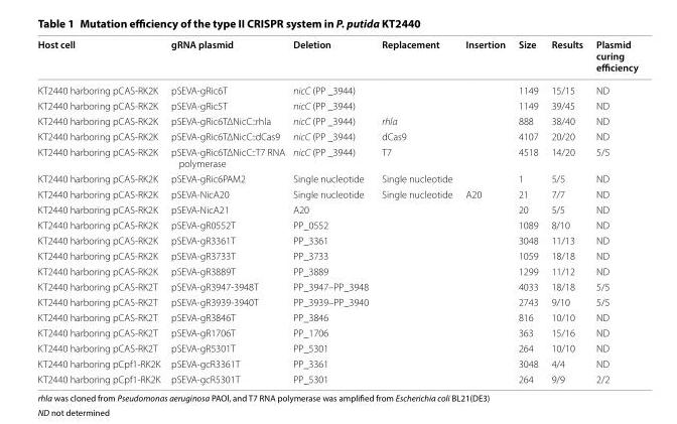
<table><thead><tr><td>Host cell</td><td>gRNA plasmid</td><td>Deletion</td><td>Replacement</td><td>Insertion</td><td>Size</td><td>Results</td><td>Plasmid curing efficiency</td></tr></thead><tbody><tr><td>KT2440 harboring pCAS-RK2K</td><td>pSEVA-gRic6T</td><td>nicC (PP _3944)</td><td></td><td></td><td>1149</td><td>15/15</td><td>ND</td></tr><tr><td>KT2440 harboring pCAS-RK2K</td><td>pSEVA-gRic5T</td><td>nicC (PP _3944)</td><td></td><td></td><td>1149</td><td>39/45</td><td>ND</td></tr><tr><td>KT2440 harboring pCAS-RK2K</td><td>pSEVA-gRic6TΔNicC::rhla</td><td>nicC (PP _3944)</td><td>rhla</td><td></td><td>888</td><td>38/40</td><td>ND</td></tr><tr><td>KT2440 harboring pCAS-RK2K</td><td>pSEVA-gRic6TΔNicC::dCas9</td><td>nicC (PP _3944)</td><td>dCas9</td><td></td><td>4107</td><td>20/20</td><td>ND</td></tr><tr><td>KT2440 harboring pCAS-RK2K</td><td>pSEVA-gRic6TΔNicC::T7 RNA polymerase</td><td>nicC (PP _3944)</td><td>T7</td><td></td><td>4518</td><td>14/20</td><td>5/5</td></tr><tr><td>KT2440 harboring pCAS-RK2K</td><td>pSEVA-gRic6PAM2</td><td>Single nucleotide</td><td>Single nucleotide</td><td></td><td>1</td><td>5/5</td><td>ND</td></tr><tr><td>KT2440 harboring pCAS-RK2K</td><td>pSEVA-NicA20</td><td>Single nucleotide</td><td>Single nucleotide</td><td>A20</td><td>21</td><td>7/7</td><td>ND</td></tr><tr><td>KT2440 harboring pCAS-RK2K</td><td>pSEVA-NicA21</td><td>A20</td><td></td><td></td><td>20</td><td>5/5</td><td>ND</td></tr><tr><td>KT2440 harboring pCAS-RK2K</td><td>pSEVA-gR0552T</td><td>PP_0552</td><td></td><td></td><td>1089</td><td>8/10</td><td>ND</td></tr><tr><td>KT2440 harboring pCAS-RK2K</td><td>pSEVA-gR3361T</td><td>PP_3361</td><td></td><td></td><td>3048</td><td>11/13</td><td>ND</td></tr><tr><td>KT2440 harboring pCAS-RK2K</td><td>pSEVA-gR3733T</td><td>PP_3733</td><td></td><td></td><td>1059</td><td>18/18</td><td>ND</td></tr><tr><td>KT2440 harboring pCAS-RK2K</td><td>pSEVA-gR3889T</td><td>PP_3889</td><td></td><td></td><td>1299</td><td>11/12</td><td>ND</td></tr><tr><td>KT2440 harboring pCAS-RK2T</td><td>pSEVA-gR3947-3948T</td><td>PP_3947–PP_3948</td><td></td><td></td><td>4033</td><td>18/18</td><td>5/5</td></tr><tr><td>KT2440 harboring pCAS-RK2T</td><td>pSEVA-gR3939-3940T</td><td>PP_3939–PP_3940</td><td></td><td></td><td>2743</td><td>9/10</td><td>5/5</td></tr><tr><td>KT2440 harboring pCAS-RK2T</td><td>pSEVA-gR3846T</td><td>PP_3846</td><td></td><td></td><td>816</td><td>10/10</td><td>ND</td></tr><tr><td>KT2440 harboring pCAS-RK2T</td><td>pSEVA-gR1706T</td><td>PP_1706</td><td></td><td></td><td>363</td><td>15/16</td><td>ND</td></tr><tr><td>KT2440 harboring pCAS-RK2T</td><td>pSEVA-gR5301T</td><td>PP_5301</td><td></td><td></td><td>264</td><td>10/10</td><td>ND</td></tr><tr><td>KT2440 harboring pCpf1-RK2K</td><td>pSEVA-gcR3361T</td><td>PP_3361</td><td></td><td></td><td>3048</td><td>4/4</td><td>ND</td></tr><tr><td>KT2440 harboring pCpf1-RK2K</td><td>pSEVA-gcR5301T</td><td>PP_5301</td><td></td><td></td><td>264</td><td>9/9</td><td>2/2</td></tr></tbody></table>